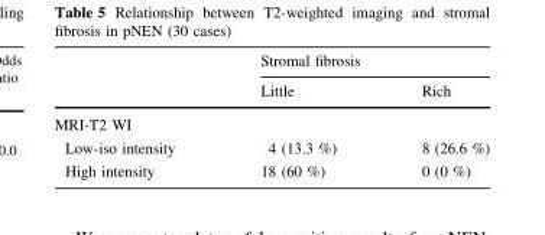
<table><thead><tr><td rowspan="2"></td><td colspan="2">Stromal fibrosis</td></tr><tr><td>Little</td><td>Rich</td></tr></thead><tbody><tr><td colspan="3">MRI-T2 WI</td></tr><tr><td>Low-iso intensity</td><td>4 (13.3 %)</td><td>8 (26.6 %)</td></tr><tr><td>High intensity</td><td>18 (60 %)</td><td>0 (0 %)</td></tr></tbody></table>